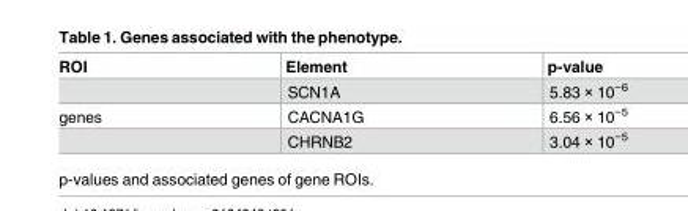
<table><thead><tr><td>ROI</td><td>Element</td><td>p-value</td></tr></thead><tbody><tr><td></td><td>SCN1A</td><td>5.83 × 10<sup>−6</sup></td></tr><tr><td rowspan="2">genes</td><td>CACNA1G</td><td>6.56 × 10<sup>−5</sup></td></tr><tr><td>CHRNB2</td><td>3.04 × 10<sup>−5</sup></td></tr></tbody></table>